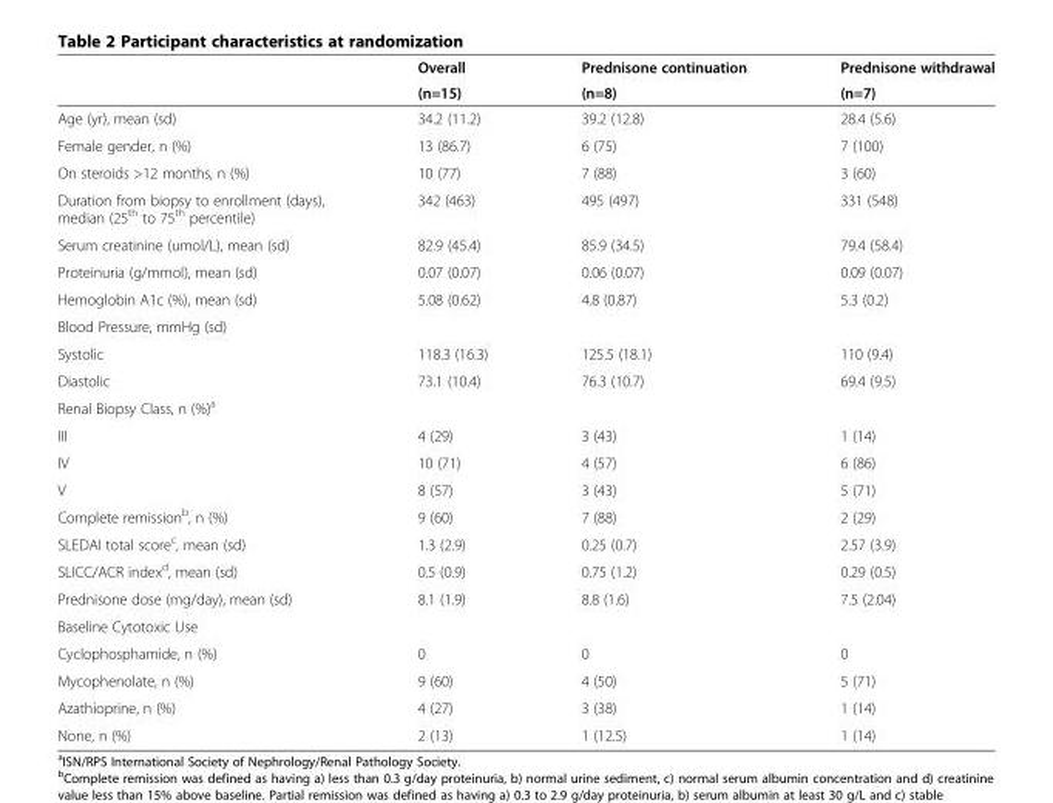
<table><thead><tr><td rowspan="2"></td><td rowspan="2">Overall (n=15)</td><td rowspan="2">Prednisone continuation (n=8)</td><td rowspan="2">Prednisone withdrawal (n=7)</td></tr><tr></tr></thead><tbody><tr><td>Age (yr), mean (sd)</td><td>34.2 (11.2)</td><td>39.2 (12.8)</td><td>28.4 (5.6)</td></tr><tr><td>Female gender, n (%)</td><td>13 (86.7)</td><td>6 (75)</td><td>7 (100)</td></tr><tr><td>On steroids &gt;12 months, n (%)</td><td>10 (77)</td><td>7 (88)</td><td>3 (60)</td></tr><tr><td>Duration from biopsy to enrollment (days), median (25<sup>th</sup> to 75<sup>th</sup> percentile)</td><td>342 (463)</td><td>495 (497)</td><td>331 (548)</td></tr><tr><td>Serum creatinine (umol/L), mean (sd)</td><td>82.9 (45.4)</td><td>85.9 (34.5)</td><td>79.4 (58.4)</td></tr><tr><td>Proteinuria (g/mmol), mean (sd)</td><td>0.07 (0.07)</td><td>0.06 (0.07)</td><td>0.09 (0.07)</td></tr><tr><td>Hemoglobin A1c (%), mean (sd)</td><td>5.08 (0.62)</td><td>4.8 (0.87)</td><td>5.3 (0.2)</td></tr><tr><td colspan="4">Blood Pressure, mmHg (sd)</td></tr><tr><td>Systolic</td><td>118.3 (16.3)</td><td>125.5 (18.1)</td><td>110 (9.4)</td></tr><tr><td>Diastolic</td><td>73.1 (10.4)</td><td>76.3 (10.7)</td><td>69.4 (9.5)</td></tr><tr><td colspan="4">Renal Biopsy Class, n (%)<sup>a</sup></td></tr><tr><td>III</td><td>4 (29)</td><td>3 (43)</td><td>1 (14)</td></tr><tr><td>IV</td><td>10 (71)</td><td>4 (57)</td><td>6 (86)</td></tr><tr><td>V</td><td>8 (57)</td><td>3 (43)</td><td>5 (71)</td></tr><tr><td>Complete remission<sup>b</sup>, n (%)</td><td>9 (60)</td><td>7 (88)</td><td>2 (29)</td></tr><tr><td>SLEDAI total score<sup>c</sup>, mean (sd)</td><td>1.3 (2.9)</td><td>0.25 (0.7)</td><td>2.57 (3.9)</td></tr><tr><td>SLICC/ACR index<sup>d</sup>, mean (sd)</td><td>0.5 (0.9)</td><td>0.75 (1.2)</td><td>0.29 (0.5)</td></tr><tr><td>Prednisone dose (mg/day), mean (sd)</td><td>8.1 (1.9)</td><td>8.8 (1.6)</td><td>7.5 (2.04)</td></tr><tr><td colspan="4">Baseline Cytotoxic Use</td></tr><tr><td>Cyclophosphamide, n (%)</td><td>0</td><td>0</td><td>0</td></tr><tr><td>Mycophenolate, n (%)</td><td>9 (60)</td><td>4 (50)</td><td>5 (71)</td></tr><tr><td>Azathioprine, n (%)</td><td>4 (27)</td><td>3 (38)</td><td>1 (14)</td></tr><tr><td>None, n (%)</td><td>2 (13)</td><td>1 (12.5)</td><td>1 (14)</td></tr></tbody></table>